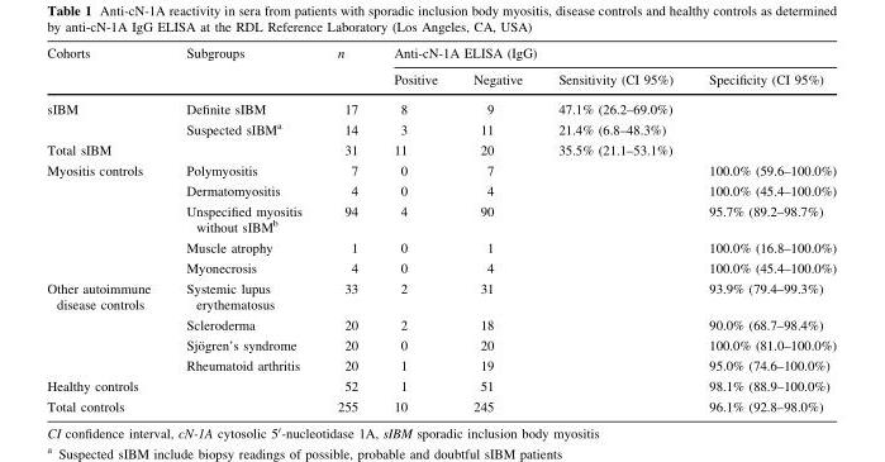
<table><thead><tr><td rowspan="2">Cohorts</td><td rowspan="2">Subgroups</td><td rowspan="2">n</td><td colspan="4">Anti-cN-1A ELISA (IgG)</td></tr><tr><td>Positive</td><td>Negative</td><td>Sensitivity (CI 95%)</td><td>Specificity (CI 95%)</td></tr></thead><tbody><tr><td rowspan="2">sIBM</td><td>Definite sIBM</td><td>17</td><td>8</td><td>9</td><td>47.1% (26.2–69.0%)</td><td></td></tr><tr><td>Suspected sIBM<sup>a</sup></td><td>14</td><td>3</td><td>11</td><td>21.4% (6.8–48.3%)</td><td></td></tr><tr><td>Total sIBM</td><td></td><td>31</td><td>11</td><td>20</td><td>35.5% (21.1–53.1%)</td><td></td></tr><tr><td rowspan="5">Myositis controls</td><td>Polymyositis</td><td>7</td><td>0</td><td>7</td><td></td><td>100.0% (59.6–100.0%)</td></tr><tr><td>Dermatomyositis</td><td>4</td><td>0</td><td>4</td><td></td><td>100.0% (45.4–100.0%)</td></tr><tr><td>Unspecified myositis without sIBM<sup>b</sup></td><td>94</td><td>4</td><td>90</td><td></td><td>95.7% (89.2–98.7%)</td></tr><tr><td>Muscle atrophy</td><td>1</td><td>0</td><td>1</td><td></td><td>100.0% (16.8–100.0%)</td></tr><tr><td>Myonecrosis</td><td>4</td><td>0</td><td>4</td><td></td><td>100.0% (45.4–100.0%)</td></tr><tr><td rowspan="4">Other autoimmune disease controls</td><td>Systemic lupus erythematosus</td><td>33</td><td>2</td><td>31</td><td></td><td>93.9% (79.4–99.3%)</td></tr><tr><td>Scleroderma</td><td>20</td><td>2</td><td>18</td><td></td><td>90.0% (68.7–98.4%)</td></tr><tr><td>Sjo¨gren’s syndrome</td><td>20</td><td>0</td><td>20</td><td></td><td>100.0% (81.0–100.0%)</td></tr><tr><td>Rheumatoid arthritis</td><td>20</td><td>1</td><td>19</td><td></td><td>95.0% (74.6–100.0%)</td></tr><tr><td>Healthy controls</td><td></td><td>52</td><td>1</td><td>51</td><td></td><td>98.1% (88.9–100.0%)</td></tr><tr><td>Total controls</td><td></td><td>255</td><td>10</td><td>245</td><td></td><td>96.1% (92.8–98.0%)</td></tr></tbody></table>